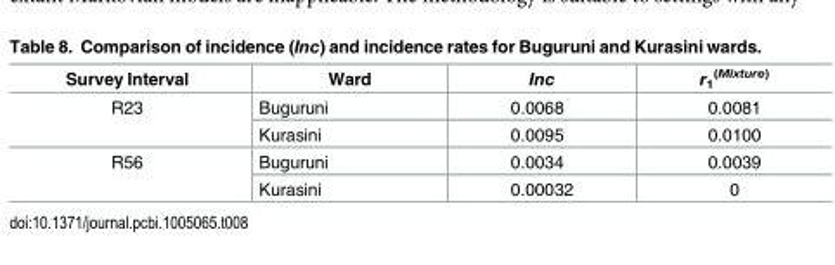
<table><thead><tr><td>Survey Interval</td><td>Ward</td><td>Inc</td><td>r<sub>1</sub> <sup>(Mixture)</sup></td></tr></thead><tbody><tr><td rowspan="2">R23</td><td>Buguruni</td><td>0.0068</td><td>0.0081</td></tr><tr><td>Kurasini</td><td>0.0095</td><td>0.0100</td></tr><tr><td rowspan="2">R56</td><td>Buguruni</td><td>0.0034</td><td>0.0039</td></tr><tr><td>Kurasini</td><td>0.00032</td><td>0</td></tr></tbody></table>